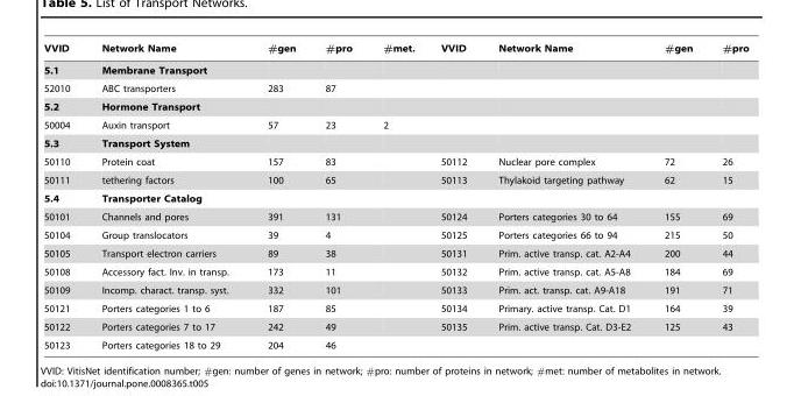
<table><thead><tr><td>VVID</td><td>Network Name</td><td>#gen</td><td>#pro</td><td>#met.</td><td>VVID</td><td>Network Name</td><td>#gen</td><td>#pro</td></tr></thead><tbody><tr><td>5.1</td><td>Membrane Transport</td><td></td><td></td><td></td><td></td><td></td><td></td><td></td></tr><tr><td>52010</td><td>ABC transporters</td><td>283</td><td>87</td><td></td><td></td><td></td><td></td><td></td></tr><tr><td>5.2</td><td>Hormone Transport</td><td></td><td></td><td></td><td></td><td></td><td></td><td></td></tr><tr><td>50004</td><td>Auxin transport</td><td>57</td><td>23</td><td>2</td><td></td><td></td><td></td><td></td></tr><tr><td>5.3</td><td>Transport System</td><td></td><td></td><td></td><td></td><td></td><td></td><td></td></tr><tr><td>50110</td><td>Protein coat</td><td>157</td><td>83</td><td></td><td>50112</td><td>Nuclear pore complex</td><td>72</td><td>26</td></tr><tr><td>50111</td><td>tethering factors</td><td>100</td><td>65</td><td></td><td>50113</td><td>Thylakoid targeting pathway</td><td>62</td><td>15</td></tr><tr><td>5.4</td><td>Transporter Catalog</td><td></td><td></td><td></td><td></td><td></td><td></td><td></td></tr><tr><td>50101</td><td>Channels and pores</td><td>391</td><td>131</td><td></td><td>50124</td><td>Porters categories 30 to 64</td><td>155</td><td>69</td></tr><tr><td>50104</td><td>Group translocators</td><td>39</td><td>4</td><td></td><td>50125</td><td>Porters categories 66 to 94</td><td>215</td><td>50</td></tr><tr><td>50105</td><td>Transport electron carriers</td><td>89</td><td>38</td><td></td><td>50131</td><td>Prim. active transp. cat. A2-A4</td><td>200</td><td>44</td></tr><tr><td>50108</td><td>Accessory fact. Inv. in transp.</td><td>173</td><td>11</td><td></td><td>50132</td><td>Prim. active transp. cat. A5-A8</td><td>184</td><td>69</td></tr><tr><td>50109</td><td>Incomp. charact. transp. syst.</td><td>332</td><td>101</td><td></td><td>50133</td><td>Prim. act. transp. cat. A9-A18</td><td>191</td><td>71</td></tr><tr><td>50121</td><td>Porters categories 1 to 6</td><td>187</td><td>85</td><td></td><td>50134</td><td>Primary. active transp. Cat. D1</td><td>164</td><td>39</td></tr><tr><td>50122</td><td>Porters categories 7 to 17</td><td>242</td><td>49</td><td></td><td>50135</td><td>Prim. active transp. Cat. D3-E2</td><td>125</td><td>43</td></tr><tr><td>50123</td><td>Porters categories 18 to 29</td><td>204</td><td>46</td><td></td><td></td><td></td><td></td><td></td></tr></tbody></table>